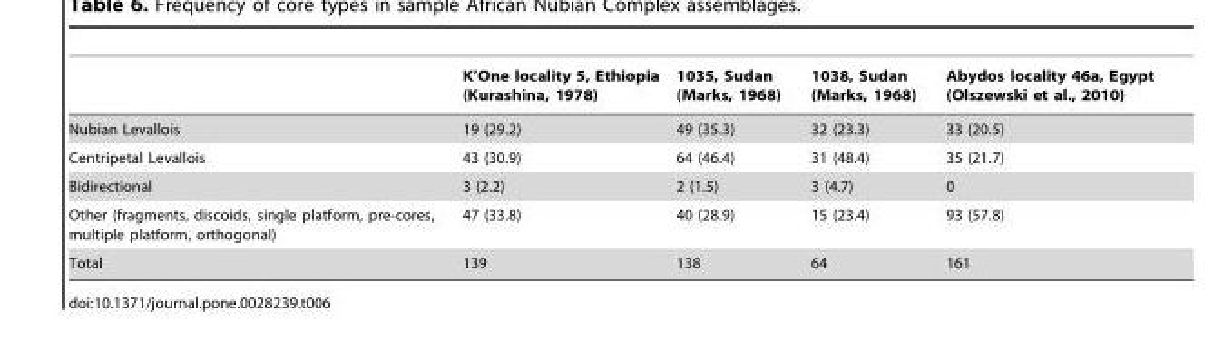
<table><thead><tr><td></td><td>K’One locality 5, Ethiopia (Kurashina, 1978)</td><td>1035, Sudan (Marks, 1968)</td><td>1038, Sudan (Marks, 1968)</td><td>Abydos locality 46a, Egypt (Olszewski et al., 2010)</td></tr></thead><tbody><tr><td>Nubian Levallois</td><td>19 (29.2)</td><td>49 (35.3)</td><td>32 (23.3)</td><td>33 (20.5)</td></tr><tr><td>Centripetal Levallois</td><td>43 (30.9)</td><td>64 (46.4)</td><td>31 (48.4)</td><td>35 (21.7)</td></tr><tr><td>Bidirectional</td><td>3 (2.2)</td><td>2 (1.5)</td><td>3 (4.7)</td><td>0</td></tr><tr><td>Other (fragments, discoids, single platform, pre-cores, multiple platform, orthogonal)</td><td>47 (33.8)</td><td>40 (28.9)</td><td>15 (23.4)</td><td>93 (57.8)</td></tr><tr><td>Total</td><td>139</td><td>138</td><td>64</td><td>161</td></tr></tbody></table>